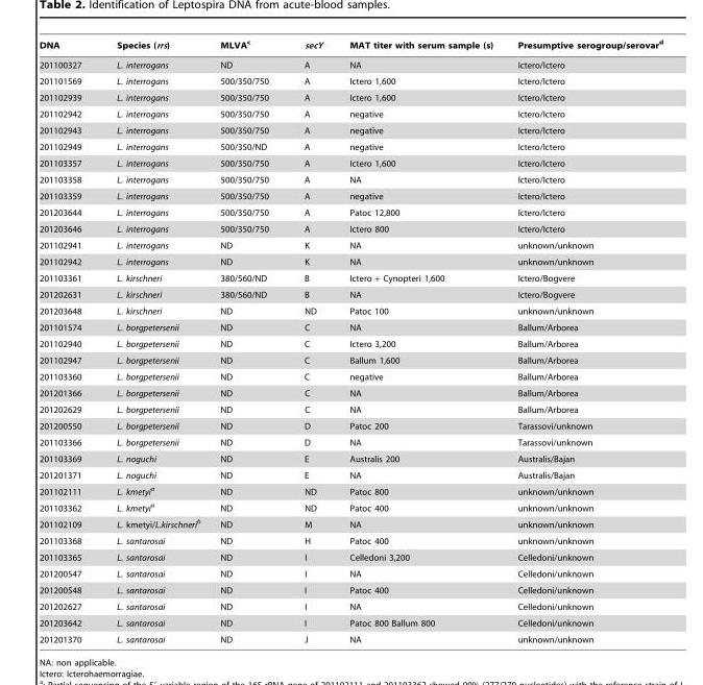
<table><thead><tr><td>DNA</td><td>Species (rrs)</td><td>MLVA<sup>c</sup></td><td>secY</td><td>MAT titer with serum sample (s)</td><td>Presumptive serogroup/serovar<sup>d</sup></td></tr></thead><tbody><tr><td>201100327</td><td>L. interrogans</td><td>ND</td><td>A</td><td>NA</td><td>Ictero/Ictero</td></tr><tr><td>201101569</td><td>L. interrogans</td><td>500/350/750</td><td>A</td><td>Ictero 1,600</td><td>Ictero/Ictero</td></tr><tr><td>201102939</td><td>L. interrogans</td><td>500/350/750</td><td>A</td><td>Ictero 1,600</td><td>Ictero/Ictero</td></tr><tr><td>201102942</td><td>L. interrogans</td><td>500/350/750</td><td>A</td><td>negative</td><td>Ictero/Ictero</td></tr><tr><td>201102943</td><td>L. interrogans</td><td>500/350/750</td><td>A</td><td>negative</td><td>Ictero/Ictero</td></tr><tr><td>201102949</td><td>L. interrogans</td><td>500/350/ND</td><td>A</td><td>negative</td><td>Ictero/Ictero</td></tr><tr><td>201103357</td><td>L. interrogans</td><td>500/350/750</td><td>A</td><td>Ictero 1,600</td><td>Ictero/Ictero</td></tr><tr><td>201103358</td><td>L. interrogans</td><td>500/350/750</td><td>A</td><td>NA</td><td>Ictero/Ictero</td></tr><tr><td>201103359</td><td>L. interrogans</td><td>500/350/750</td><td>A</td><td>negative</td><td>Ictero/Ictero</td></tr><tr><td>201203644</td><td>L. interrogans</td><td>500/350/750</td><td>A</td><td>Patoc 12,800</td><td>Ictero/Ictero</td></tr><tr><td>201203646</td><td>L. interrogans</td><td>500/350/750</td><td>A</td><td>Ictero 800</td><td>Ictero/Ictero</td></tr><tr><td>201102941</td><td>L. interrogans</td><td>ND</td><td>K</td><td>NA</td><td>unknown/unknown</td></tr><tr><td>201102942</td><td>L. interrogans</td><td>ND</td><td>K</td><td>NA</td><td>unknown/unknown</td></tr><tr><td>201103361</td><td>L. kirschneri</td><td>380/560/ND</td><td>B</td><td>Ictero + Cynopteri 1,600</td><td>Ictero/Bogvere</td></tr><tr><td>201202631</td><td>L. kirschneri</td><td>380/560/ND</td><td>B</td><td>NA</td><td>Ictero/Bogvere</td></tr><tr><td>201203648</td><td>L. kirschneri</td><td>ND</td><td>ND</td><td>Patoc 100</td><td>unknown/unknown</td></tr><tr><td>201101574</td><td>L. borgpetersenii</td><td>ND</td><td>C</td><td>NA</td><td>Ballum/Arborea</td></tr><tr><td>201102940</td><td>L. borgpetersenii</td><td>ND</td><td>C</td><td>Ictero 3,200</td><td>Ballum/Arborea</td></tr><tr><td>201102947</td><td>L. borgpetersenii</td><td>ND</td><td>C</td><td>Ballum 1,600</td><td>Ballum/Arborea</td></tr><tr><td>201103360</td><td>L. borgpetersenii</td><td>ND</td><td>C</td><td>negative</td><td>Ballum/Arborea</td></tr><tr><td>201201366</td><td>L. borgpetersenii</td><td>ND</td><td>C</td><td>NA</td><td>Ballum/Arborea</td></tr><tr><td>201202629</td><td>L. borgpetersenii</td><td>ND</td><td>C</td><td>NA</td><td>Ballum/Arborea</td></tr><tr><td>201200550</td><td>L. borgpetersenii</td><td>ND</td><td>D</td><td>Patoc 200</td><td>Tarassovi/unknown</td></tr><tr><td>201103366</td><td>L. borgpetersenii</td><td>ND</td><td>D</td><td>NA</td><td>Tarassovi/unknown</td></tr><tr><td>201103369</td><td>L. noguchi</td><td>ND</td><td>E</td><td>Australis 200</td><td>Australis/Bajan</td></tr><tr><td>201201371</td><td>L. noguchi</td><td>ND</td><td>E</td><td>NA</td><td>Australis/Bajan</td></tr><tr><td>201102111</td><td>L. kmetyia</td><td>ND</td><td>ND</td><td>Patoc 800</td><td>unknown/unknown</td></tr><tr><td>201103362</td><td>L. kmetyia</td><td>ND</td><td>ND</td><td>Patoc 400</td><td>unknown/unknown</td></tr><tr><td>201102109</td><td>L. kmetyi/L.kirschnerib</td><td>ND</td><td>M</td><td>NA</td><td>unknown/unknown</td></tr><tr><td>201103368</td><td>L. santarosai</td><td>ND</td><td>H</td><td>Patoc 400</td><td>unknown/unknown</td></tr><tr><td>201103365</td><td>L. santarosai</td><td>ND</td><td>I</td><td>Celledoni 3,200</td><td>Celledoni/unknown</td></tr><tr><td>201200547</td><td>L. santarosai</td><td>ND</td><td>I</td><td>NA</td><td>Celledoni/unknown</td></tr><tr><td>201200548</td><td>L. santarosai</td><td>ND</td><td>I</td><td>Patoc 400</td><td>Celledoni/unknown</td></tr><tr><td>201202627</td><td>L. santarosai</td><td>ND</td><td>I</td><td>NA</td><td>Celledoni/unknown</td></tr><tr><td>201203642</td><td>L. santarosai</td><td>ND</td><td>I</td><td>Patoc 800 Ballum 800</td><td>Celledoni/unknown</td></tr><tr><td>201201370</td><td>L. santarosai</td><td>ND</td><td>J</td><td>NA</td><td>unknown/unknown</td></tr></tbody></table>